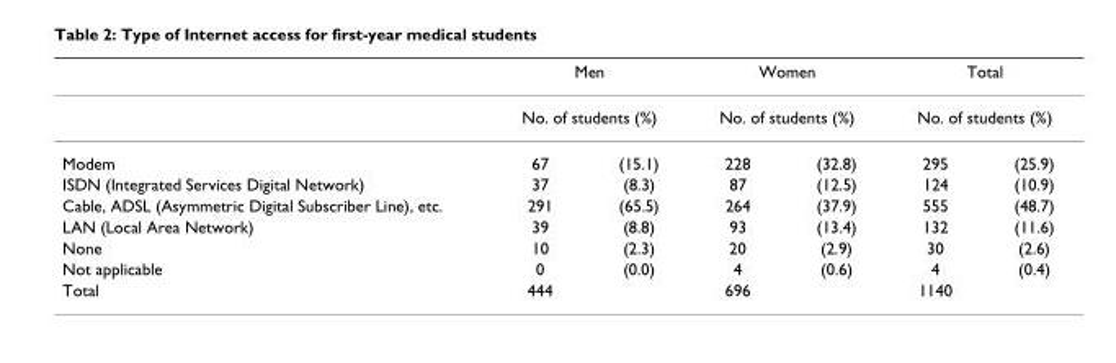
<table><thead><tr><td rowspan="3">Modem</td><td rowspan="2" colspan="2">Men No. of students (%)</td><td rowspan="2" colspan="2">Women No. of students (%)</td><td rowspan="2" colspan="2">Total No. of students (%)</td></tr><tr></tr><tr><td>67</td><td>(15.1)</td><td>228</td><td>(32.8)</td><td>295</td><td>(25.9)</td></tr></thead><tbody><tr><td>ISDN (Integrated Services Digital Network)</td><td>37</td><td>(8.3)</td><td>87</td><td>(12.5)</td><td>124</td><td>(10.9)</td></tr><tr><td>Cable, ADSL (Asymmetric Digital Subscriber Line), etc.</td><td>291</td><td>(65.5)</td><td>264</td><td>(37.9)</td><td>555</td><td>(48.7)</td></tr><tr><td>LAN (Local Area Network)</td><td>39</td><td>(8.8)</td><td>93</td><td>(13.4)</td><td>132</td><td>(11.6)</td></tr><tr><td>None</td><td>10</td><td>(2.3)</td><td>20</td><td>(2.9)</td><td>30</td><td>(2.6)</td></tr><tr><td>Not applicable</td><td>0</td><td>(0.0)</td><td>4</td><td>(0.6)</td><td>4</td><td>(0.4)</td></tr><tr><td>Total</td><td>444</td><td></td><td>696</td><td></td><td>1140</td><td></td></tr></tbody></table>